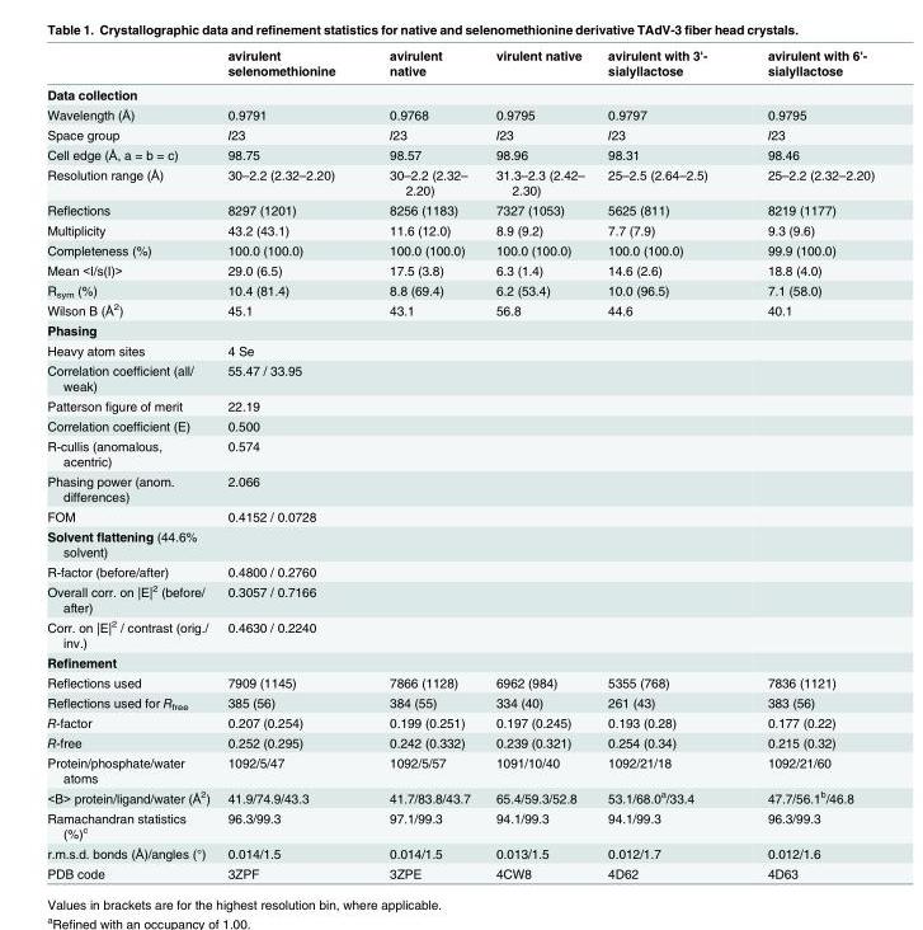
<table><thead><tr><td></td><td>avirulent selenomethionine</td><td>avirulent native</td><td>virulent native</td><td>avirulent with 3&#x27;- sialyllactose</td><td>avirulent with 6&#x27;- sialyllactose</td></tr></thead><tbody><tr><td colspan="6">Data collection</td></tr><tr><td>Wavelength (Å)</td><td>0.9791</td><td>0.9768</td><td>0.9795</td><td>0.9797</td><td>0.9795</td></tr><tr><td>Space group</td><td>I23</td><td>I23</td><td>I23</td><td>I23</td><td>I23</td></tr><tr><td>Cell edge (Å, a = b = c)</td><td>98.75</td><td>98.57</td><td>98.96</td><td>98.31</td><td>98.46</td></tr><tr><td>Resolution range (Å)</td><td>30–2.2 (2.32–2.20)</td><td>30–2.2 (2.32– 2.20)</td><td>31.3–2.3 (2.42– 2.30)</td><td>25–2.5 (2.64–2.5)</td><td>25–2.2 (2.32–2.20)</td></tr><tr><td>Reflections</td><td>8297 (1201)</td><td>8256 (1183)</td><td>7327 (1053)</td><td>5625 (811)</td><td>8219 (1177)</td></tr><tr><td>Multiplicity</td><td>43.2 (43.1)</td><td>11.6 (12.0)</td><td>8.9 (9.2)</td><td>7.7 (7.9)</td><td>9.3 (9.6)</td></tr><tr><td>Completeness (%)</td><td>100.0 (100.0)</td><td>100.0 (100.0)</td><td>100.0 (100.0)</td><td>100.0 (100.0)</td><td>99.9 (100.0)</td></tr><tr><td>Mean &lt;I/s(I)&gt;</td><td>29.0 (6.5)</td><td>17.5 (3.8)</td><td>6.3 (1.4)</td><td>14.6 (2.6)</td><td>18.8 (4.0)</td></tr><tr><td>R<sub>sym</sub> (%)</td><td>10.4 (81.4)</td><td>8.8 (69.4)</td><td>6.2 (53.4)</td><td>10.0 (96.5)</td><td>7.1 (58.0)</td></tr><tr><td>Wilson B (Å<sup>2</sup>)</td><td>45.1</td><td>43.1</td><td>56.8</td><td>44.6</td><td>40.1</td></tr><tr><td colspan="6">Phasing</td></tr><tr><td>Heavy atom sites</td><td>4 Se</td><td></td><td></td><td></td><td></td></tr><tr><td>Correlation coefficient (all/ weak)</td><td>55.47 / 33.95</td><td></td><td></td><td></td><td></td></tr><tr><td>Patterson figure of merit</td><td>22.19</td><td></td><td></td><td></td><td></td></tr><tr><td>Correlation coefficient (E)</td><td>0.500</td><td></td><td></td><td></td><td></td></tr><tr><td>R-cullis (anomalous, acentric)</td><td>0.574</td><td></td><td></td><td></td><td></td></tr><tr><td>Phasing power (anom. differences)</td><td>2.066</td><td></td><td></td><td></td><td></td></tr><tr><td>FOM</td><td>0.4152 / 0.0728</td><td></td><td></td><td></td><td></td></tr><tr><td colspan="6">Solvent flattening (44.6% solvent)</td></tr><tr><td>R-factor (before/after)</td><td>0.4800 / 0.2760</td><td></td><td></td><td></td><td></td></tr><tr><td>Overall corr. on |E|<sup>2</sup> (before/ after)</td><td>0.3057 / 0.7166</td><td></td><td></td><td></td><td></td></tr><tr><td>Corr. on |E|<sup>2</sup> / contrast (orig./ inv.)</td><td>0.4630 / 0.2240</td><td></td><td></td><td></td><td></td></tr><tr><td colspan="6">Refinement</td></tr><tr><td>Reflections used</td><td>7909 (1145)</td><td>7866 (1128)</td><td>6962 (984)</td><td>5355 (768)</td><td>7836 (1121)</td></tr><tr><td>Reflections used for R<sub>free</sub></td><td>385 (56)</td><td>384 (55)</td><td>334 (40)</td><td>261 (43)</td><td>383 (56)</td></tr><tr><td>R-factor</td><td>0.207 (0.254)</td><td>0.199 (0.251)</td><td>0.197 (0.245)</td><td>0.193 (0.28)</td><td>0.177 (0.22)</td></tr><tr><td>R-free</td><td>0.252 (0.295)</td><td>0.242 (0.332)</td><td>0.239 (0.321)</td><td>0.254 (0.34)</td><td>0.215 (0.32)</td></tr><tr><td>Protein/phosphate/water atoms</td><td>1092/5/47</td><td>1092/5/57</td><td>1091/10/40</td><td>1092/21/18</td><td>1092/21/60</td></tr><tr><td>&lt;B&gt; protein/ligand/water (Å<sup>2</sup>)</td><td>41.9/74.9/43.3</td><td>41.7/83.8/43.7</td><td>65.4/59.3/52.8</td><td>53.1/68.0<sup>a</sup>/33.4</td><td>47.7/56.1<sup>b</sup>/46.8</td></tr><tr><td>Ramachandran statistics (%)<sup>c</sup></td><td>96.3/99.3</td><td>97.1/99.3</td><td>94.1/99.3</td><td>94.1/99.3</td><td>96.3/99.3</td></tr><tr><td>r.m.s.d. bonds (Å)/angles (°)</td><td>0.014/1.5</td><td>0.014/1.5</td><td>0.013/1.5</td><td>0.012/1.7</td><td>0.012/1.6</td></tr><tr><td>PDB code</td><td>3ZPF</td><td>3ZPE</td><td>4CW8</td><td>4D62</td><td>4D63</td></tr></tbody></table>